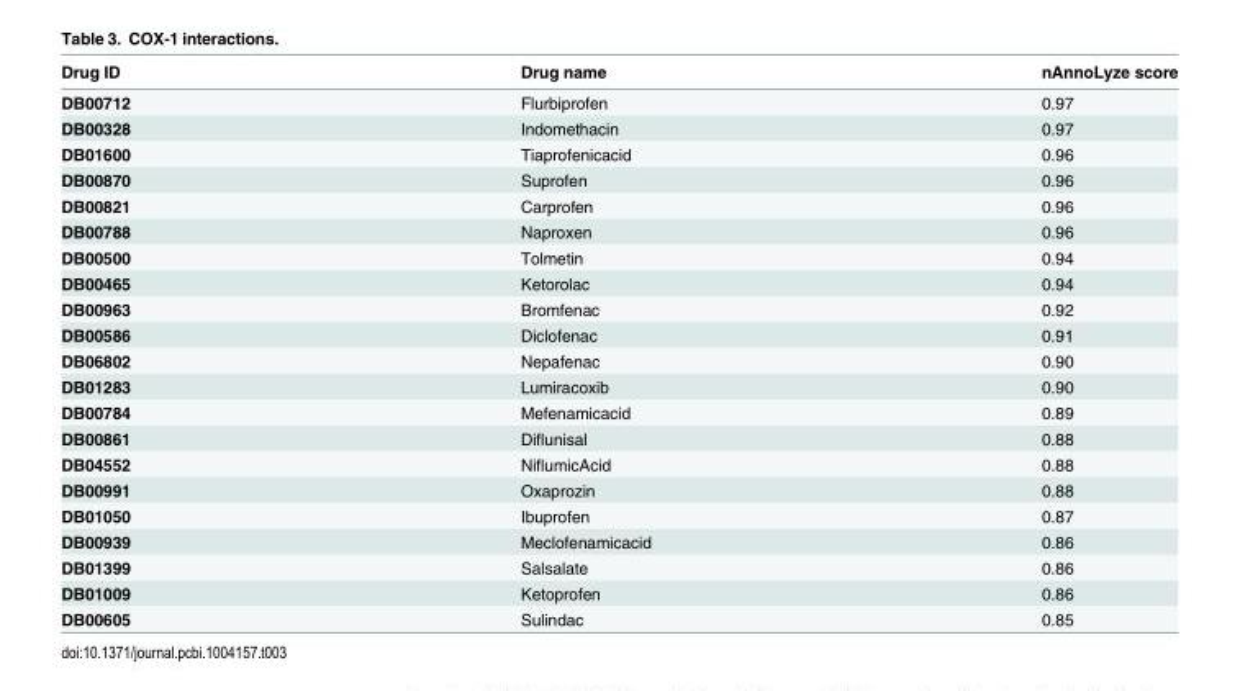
<table><thead><tr><td>Drug ID</td><td>Drug name</td><td>nAnnoLyze score</td></tr></thead><tbody><tr><td>DB00712</td><td>Flurbiprofen</td><td>0.97</td></tr><tr><td>DB00328</td><td>Indomethacin</td><td>0.97</td></tr><tr><td>DB01600</td><td>Tiaprofenicacid</td><td>0.96</td></tr><tr><td>DB00870</td><td>Suprofen</td><td>0.96</td></tr><tr><td>DB00821</td><td>Carprofen</td><td>0.96</td></tr><tr><td>DB00788</td><td>Naproxen</td><td>0.96</td></tr><tr><td>DB00500</td><td>Tolmetin</td><td>0.94</td></tr><tr><td>DB00465</td><td>Ketorolac</td><td>0.94</td></tr><tr><td>DB00963</td><td>Bromfenac</td><td>0.92</td></tr><tr><td>DB00586</td><td>Diclofenac</td><td>0.91</td></tr><tr><td>DB06802</td><td>Nepafenac</td><td>0.90</td></tr><tr><td>DB01283</td><td>Lumiracoxib</td><td>0.90</td></tr><tr><td>DB00784</td><td>Mefenamicacid</td><td>0.89</td></tr><tr><td>DB00861</td><td>Diflunisal</td><td>0.88</td></tr><tr><td>DB04552</td><td>NiflumicAcid</td><td>0.88</td></tr><tr><td>DB00991</td><td>Oxaprozin</td><td>0.88</td></tr><tr><td>DB01050</td><td>Ibuprofen</td><td>0.87</td></tr><tr><td>DB00939</td><td>Meclofenamicacid</td><td>0.86</td></tr><tr><td>DB01399</td><td>Salsalate</td><td>0.86</td></tr><tr><td>DB01009</td><td>Ketoprofen</td><td>0.86</td></tr><tr><td>DB00605</td><td>Sulindac</td><td>0.85</td></tr></tbody></table>